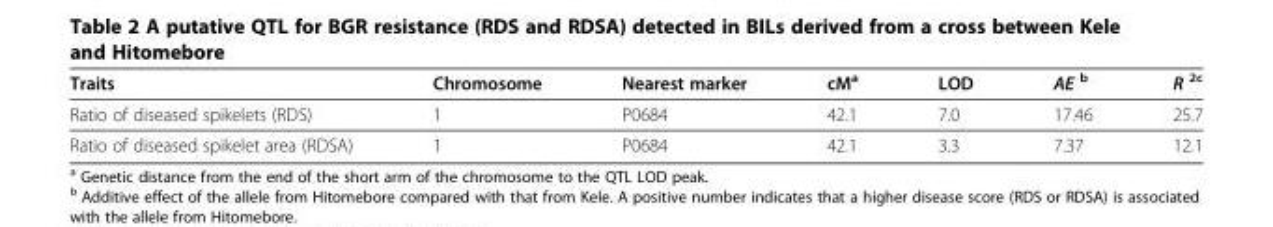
<table><thead><tr><td>Traits</td><td>Chromosome</td><td>Nearest marker</td><td>cM<sup>a</sup></td><td>LOD</td><td>AE <sup>b</sup></td><td>R <sup>2c</sup></td></tr></thead><tbody><tr><td>Ratio of diseased spikelets (RDS)</td><td>1</td><td>P0684</td><td>42.1</td><td>7.0</td><td>17.46</td><td>25.7</td></tr><tr><td>Ratio of diseased spikelet area (RDSA)</td><td>1</td><td>P0684</td><td>42.1</td><td>3.3</td><td>7.37</td><td>12.1</td></tr></tbody></table>